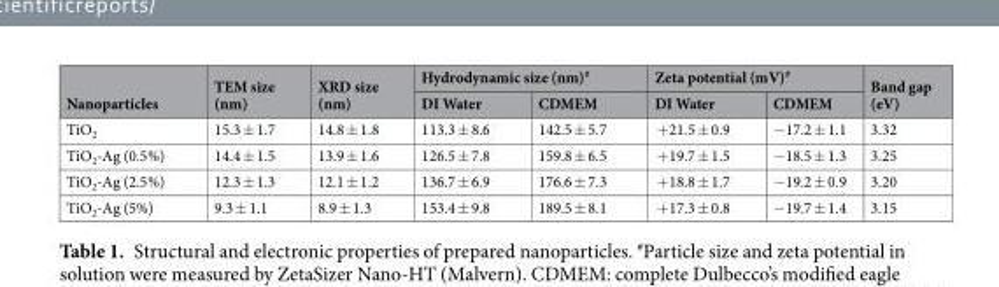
<table><thead><tr><td rowspan="2">Nanoparticles</td><td rowspan="2">TEM size (nm)</td><td rowspan="2">XRD size (nm)</td><td colspan="2">Hydrodynamic size (nm)<sup>#</sup></td><td colspan="2">Zeta potential (mV)<sup>#</sup></td><td rowspan="2">Band gap (eV)</td></tr><tr><td>DI Water</td><td>CDMEM</td><td>DI Water</td><td>CDMEM</td></tr></thead><tbody><tr><td>TiO<sub>2</sub></td><td>15.3 ± 1.7</td><td>14.8 ± 1.8</td><td>113.3 ± 8.6</td><td>142.5 ± 5.7</td><td>+21.5 ± 0.9</td><td>−17.2 ± 1.1</td><td>3.32</td></tr><tr><td>TiO<sub>2</sub>-Ag (0.5%)</td><td>14.4 ± 1.5</td><td>13.9 ± 1.6</td><td>126.5 ± 7.8</td><td>159.8 ± 6.5</td><td>+19.7 ± 1.5</td><td>−18.5 ± 1.3</td><td>3.25</td></tr><tr><td>TiO<sub>2</sub>-Ag (2.5%)</td><td>12.3 ± 1.3</td><td>12.1 ± 1.2</td><td>136.7 ± 6.9</td><td>176.6 ± 7.3</td><td>+18.8 ± 1.7</td><td>−19.2 ± 0.9</td><td>3.20</td></tr><tr><td>TiO<sub>2</sub>-Ag (5%)</td><td>9.3 ± 1.1</td><td>8.9 ± 1.3</td><td>153.4 ± 9.8</td><td>189.5 ± 8.1</td><td>+17.3 ± 0.8</td><td>−19.7 ± 1.4</td><td>3.15</td></tr></tbody></table>